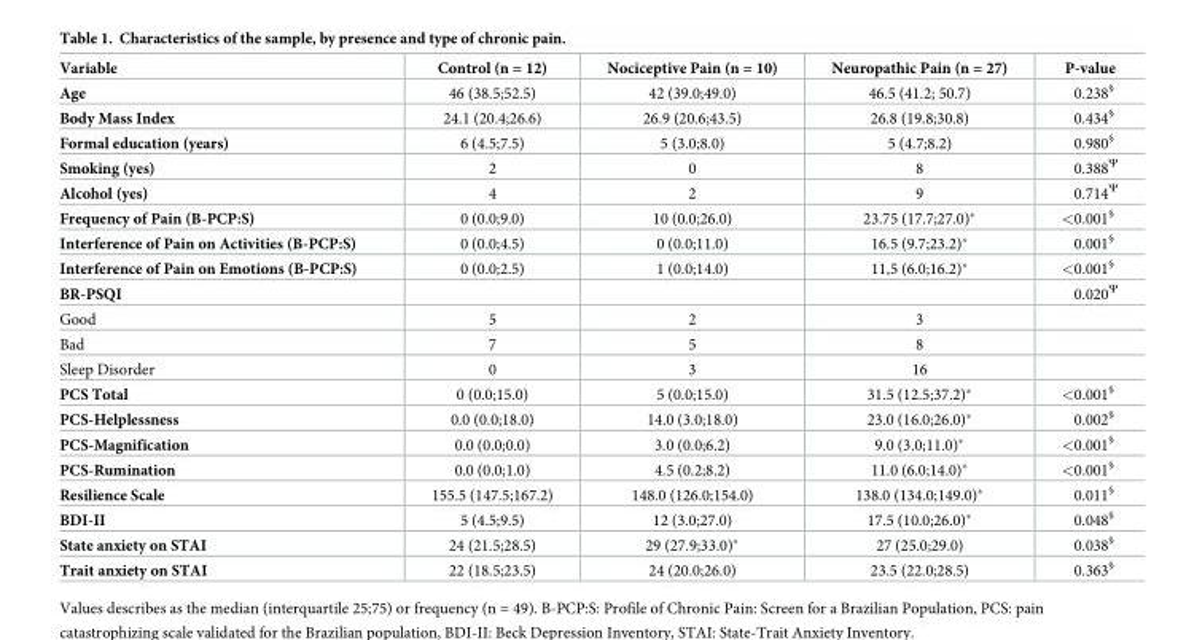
<table><thead><tr><td>Variable</td><td>Control (n = 12)</td><td>Nociceptive Pain (n = 10)</td><td>Neuropathic Pain (n = 27)</td><td>P-value</td></tr></thead><tbody><tr><td>Age</td><td>46 (38.5;52.5)</td><td>42 (39.0;49.0)</td><td>46.5 (41.2; 50.7)</td><td>0.238<sup>§</sup></td></tr><tr><td>Body Mass Index</td><td>24.1 (20.4;26.6)</td><td>26.9 (20.6;43.5)</td><td>26.8 (19.8;30.8)</td><td>0.434<sup>§</sup></td></tr><tr><td>Formal education (years)</td><td>6 (4.5;7.5)</td><td>5 (3.0;8.0)</td><td>5 (4.7;8.2)</td><td>0.980<sup>§</sup></td></tr><tr><td>Smoking (yes)</td><td>2</td><td>0</td><td>8</td><td>0.388<sup>Ψ</sup></td></tr><tr><td>Alcohol (yes)</td><td>4</td><td>2</td><td>9</td><td>0.714<sup>Ψ</sup></td></tr><tr><td>Frequency of Pain (B-PCP:S)</td><td>0 (0.0;9.0)</td><td>10 (0.0;26.0)</td><td>23.75 (17.7;27.0)*</td><td>&lt;0.001<sup>§</sup></td></tr><tr><td>Interference of Pain on Activities (B-PCP:S)</td><td>0 (0.0;4.5)</td><td>0 (0.0;11.0)</td><td>16.5 (9.7;23.2)*</td><td>0.001<sup>§</sup></td></tr><tr><td>Interference of Pain on Emotions (B-PCP:S)</td><td>0 (0.0;2.5)</td><td>1 (0.0;14.0)</td><td>11,5 (6.0;16.2)*</td><td>&lt;0.001<sup>§</sup></td></tr><tr><td>BR-PSQI</td><td></td><td></td><td></td><td>0.020<sup>Ψ</sup></td></tr><tr><td>Good</td><td>5</td><td>2</td><td>3</td><td></td></tr><tr><td>Bad</td><td>7</td><td>5</td><td>8</td><td></td></tr><tr><td>Sleep Disorder</td><td>0</td><td>3</td><td>16</td><td></td></tr><tr><td>PCS Total</td><td>0 (0.0;15.0)</td><td>5 (0.0;15.0)</td><td>31.5 (12.5;37.2)*</td><td>&lt;0.001<sup>§</sup></td></tr><tr><td>PCS-Helplessness</td><td>0.0 (0.0;18.0)</td><td>14.0 (3.0;18.0)</td><td>23.0 (16.0;26.0)*</td><td>0.002<sup>§</sup></td></tr><tr><td>PCS-Magnification</td><td>0.0 (0.0;0.0)</td><td>3.0 (0.0;6.2)</td><td>9.0 (3.0;11.0)*</td><td>&lt;0.001<sup>§</sup></td></tr><tr><td>PCS-Rumination</td><td>0.0 (0.0;1.0)</td><td>4.5 (0.2;8.2)</td><td>11.0 (6.0;14.0)*</td><td>&lt;0.001<sup>§</sup></td></tr><tr><td>Resilience Scale</td><td>155.5 (147.5;167.2)</td><td>148.0 (126.0;154.0)</td><td>138.0 (134.0;149.0)*</td><td>0.011<sup>§</sup></td></tr><tr><td>BDI-II</td><td>5 (4.5;9.5)</td><td>12 (3.0;27.0)</td><td>17.5 (10.0;26.0)*</td><td>0.048<sup>§</sup></td></tr><tr><td>State anxiety on STAI</td><td>24 (21.5;28.5)</td><td>29 (27.9;33.0)*</td><td>27 (25.0;29.0)</td><td>0.038<sup>§</sup></td></tr><tr><td>Trait anxiety on STAI</td><td>22 (18.5;23.5)</td><td>24 (20.0;26.0)</td><td>23.5 (22.0;28.5)</td><td>0.363<sup>§</sup></td></tr></tbody></table>